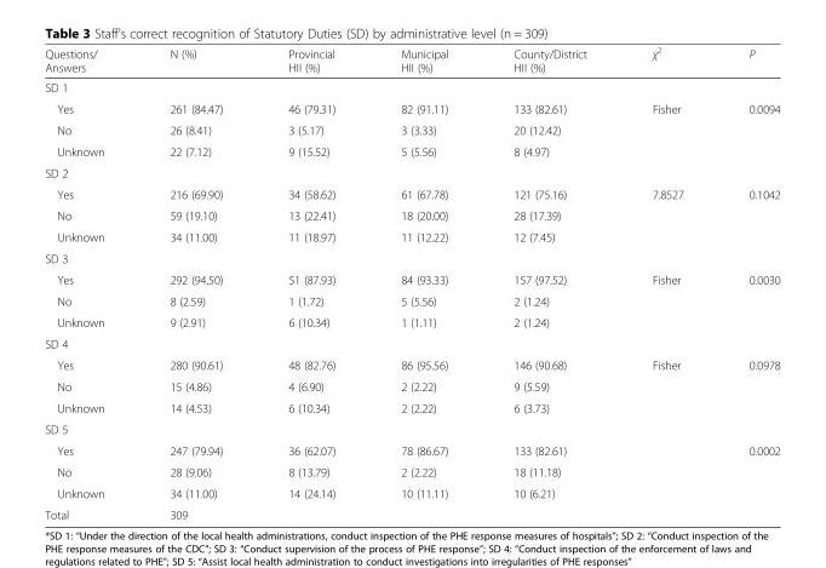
<table><thead><tr><td>Questions/ Answers</td><td>N (%)</td><td>Provincial HII (%)</td><td>Municipal HII (%)</td><td>County/District HII (%)</td><td>χ<sup>2</sup></td><td>P</td></tr></thead><tbody><tr><td colspan="7">SD 1</td></tr><tr><td>Yes</td><td>261 (84.47)</td><td>46 (79.31)</td><td>82 (91.11)</td><td>133 (82.61)</td><td>Fisher</td><td>0.0094</td></tr><tr><td>No</td><td>26 (8.41)</td><td>3 (5.17)</td><td>3 (3.33)</td><td>20 (12.42)</td><td></td><td></td></tr><tr><td>Unknown</td><td>22 (7.12)</td><td>9 (15.52)</td><td>5 (5.56)</td><td>8 (4.97)</td><td></td><td></td></tr><tr><td colspan="7">SD 2</td></tr><tr><td>Yes</td><td>216 (69.90)</td><td>34 (58.62)</td><td>61 (67.78)</td><td>121 (75.16)</td><td>7.8527</td><td>0.1042</td></tr><tr><td>No</td><td>59 (19.10)</td><td>13 (22.41)</td><td>18 (20.00)</td><td>28 (17.39)</td><td></td><td></td></tr><tr><td>Unknown</td><td>34 (11.00)</td><td>11 (18.97)</td><td>11 (12.22)</td><td>12 (7.45)</td><td></td><td></td></tr><tr><td colspan="7">SD 3</td></tr><tr><td>Yes</td><td>292 (94.50)</td><td>51 (87.93)</td><td>84 (93.33)</td><td>157 (97.52)</td><td>Fisher</td><td>0.0030</td></tr><tr><td>No</td><td>8 (2.59)</td><td>1 (1.72)</td><td>5 (5.56)</td><td>2 (1.24)</td><td></td><td></td></tr><tr><td>Unknown</td><td>9 (2.91)</td><td>6 (10.34)</td><td>1 (1.11)</td><td>2 (1.24)</td><td></td><td></td></tr><tr><td colspan="7">SD 4</td></tr><tr><td>Yes</td><td>280 (90.61)</td><td>48 (82.76)</td><td>86 (95.56)</td><td>146 (90.68)</td><td>Fisher</td><td>0.0978</td></tr><tr><td>No</td><td>15 (4.86)</td><td>4 (6.90)</td><td>2 (2.22)</td><td>9 (5.59)</td><td></td><td></td></tr><tr><td>Unknown</td><td>14 (4.53)</td><td>6 (10.34)</td><td>2 (2.22)</td><td>6 (3.73)</td><td></td><td></td></tr><tr><td colspan="7">SD 5</td></tr><tr><td>Yes</td><td>247 (79.94)</td><td>36 (62.07)</td><td>78 (86.67)</td><td>133 (82.61)</td><td></td><td>0.0002</td></tr><tr><td>No</td><td>28 (9.06)</td><td>8 (13.79)</td><td>2 (2.22)</td><td>18 (11.18)</td><td></td><td></td></tr><tr><td>Unknown</td><td>34 (11.00)</td><td>14 (24.14)</td><td>10 (11.11)</td><td>10 (6.21)</td><td></td><td></td></tr><tr><td>Total</td><td>309</td><td></td><td></td><td></td><td></td><td></td></tr></tbody></table>